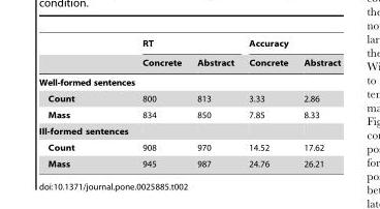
<table><thead><tr><td rowspan="2"></td><td colspan="2">RT</td><td colspan="2">Accuracy</td></tr><tr><td>Concrete</td><td>Abstract</td><td>Concrete</td><td>Abstract</td></tr></thead><tbody><tr><td colspan="5">Well-formed sentences</td></tr><tr><td>Count</td><td>800</td><td>813</td><td>3.33</td><td>2.86</td></tr><tr><td>Mass</td><td>834</td><td>850</td><td>7.85</td><td>8.33</td></tr><tr><td colspan="5">Ill-formed sentences</td></tr><tr><td>Count</td><td>908</td><td>970</td><td>14.52</td><td>17.62</td></tr><tr><td>Mass</td><td>945</td><td>987</td><td>24.76</td><td>26.21</td></tr></tbody></table>